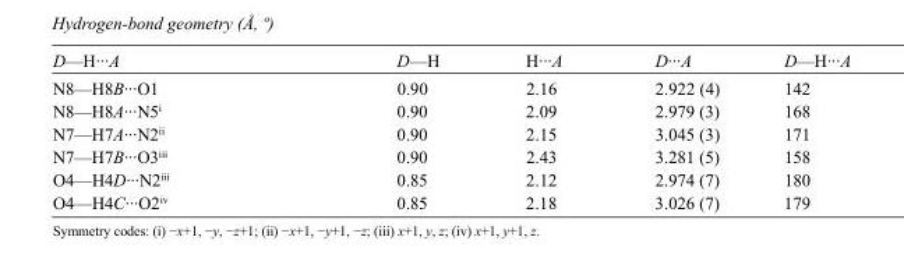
<table><tbody><tr><td>D—H···A</td><td>D—H</td><td>H···A</td><td>D···A</td><td>D—H···A</td></tr><tr><td>N8—H8B···O1</td><td>0.90</td><td>2.16</td><td>2.922 (4)</td><td>142</td></tr><tr><td>N8—H8A···N5<sup>i</sup></td><td>0.90</td><td>2.09</td><td>2.979 (3)</td><td>168</td></tr><tr><td>N7—H7A···N2<sup>ii</sup></td><td>0.90</td><td>2.15</td><td>3.045 (3)</td><td>171</td></tr><tr><td>N7—H7B···O3<sup>iii</sup></td><td>0.90</td><td>2.43</td><td>3.281 (5)</td><td>158</td></tr><tr><td>O4—H4D···N2<sup>iii</sup></td><td>0.85</td><td>2.12</td><td>2.974 (7)</td><td>180</td></tr><tr><td>O4—H4C···O2<sup>iv</sup></td><td>0.85</td><td>2.18</td><td>3.026 (7)</td><td>179</td></tr></tbody></table>